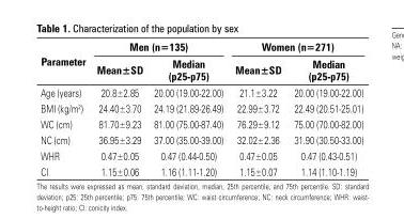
<table><thead><tr><td rowspan="2">Parameter</td><td colspan="2">Men (n=135)</td><td colspan="2">Women (n=271)</td></tr><tr><td>Mean±SD</td><td>Median (p25-p75)</td><td>Mean±SD</td><td>Median (p25-p75)</td></tr></thead><tbody><tr><td>Age (years)</td><td>20.8±2.85</td><td>20.00 (19.00-22.00)</td><td>21.1±3.22</td><td>20.00 (19.00-22.00)</td></tr><tr><td>BMI (kg/m<sup>2</sup>)</td><td>24.40±3.70</td><td>24.19 (21.89-26.49)</td><td>22.99±3.72</td><td>22.49 (20.51-25.01)</td></tr><tr><td>WC (cm)</td><td>81.70±9.23</td><td>81.00 (75.00-87.40)</td><td>76.29±9.12</td><td>75.00 (70.00-82.00)</td></tr><tr><td>NC (cm)</td><td>36.95±3.29</td><td>37.00 (35.00-39.00)</td><td>32.02±2.36</td><td>31.90 (30.50-33.00)</td></tr><tr><td>WHR</td><td>0.47±0.05</td><td>0.47 (0.44-0.50)</td><td>0.47±0.05</td><td>0.47 (0.43-0.51)</td></tr><tr><td>CI</td><td>1.15±0.06</td><td>1.16 (1.11-1.20)</td><td>1.15±0.07</td><td>1.14 (1.10-1.19)</td></tr></tbody></table>